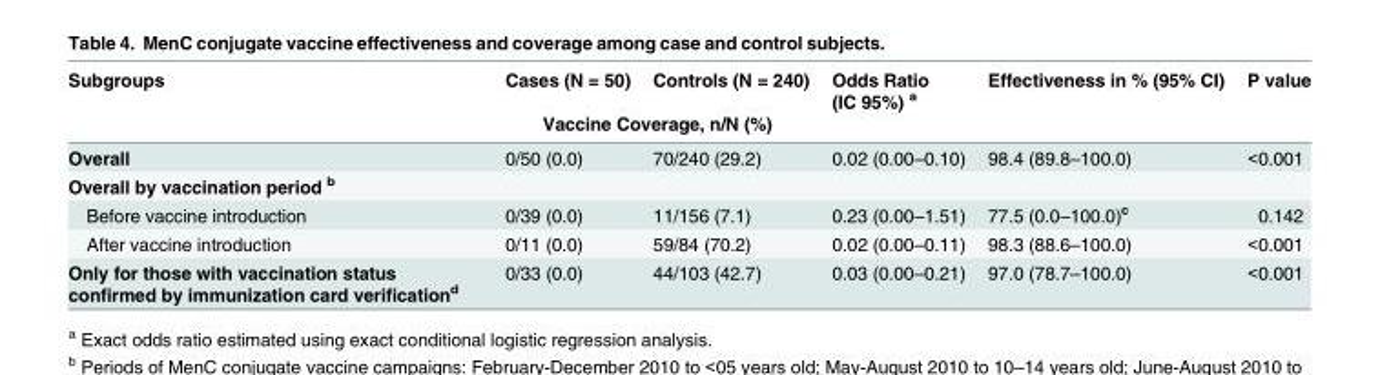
<table><thead><tr><td rowspan="2">Subgroups</td><td>Cases (N = 50)</td><td>Controls (N = 240)</td><td rowspan="2">Odds Ratio (IC 95%) <sup>a</sup></td><td rowspan="2">Effectiveness in % (95% CI)</td><td rowspan="2">P value</td></tr><tr><td colspan="2">Vaccine Coverage, n/N (%)</td></tr></thead><tbody><tr><td>Overall</td><td>0/50 (0.0)</td><td>70/240 (29.2)</td><td>0.02 (0.00–0.10)</td><td>98.4 (89.8–100.0)</td><td>&lt;0.001</td></tr><tr><td colspan="6">Overall by vaccination period <sup>b</sup></td></tr><tr><td>Before vaccine introduction</td><td>0/39 (0.0)</td><td>11/156 (7.1)</td><td>0.23 (0.00–1.51)</td><td>77.5 (0.0–100.0)<sup>c</sup></td><td>0.142</td></tr><tr><td>After vaccine introduction</td><td>0/11 (0.0)</td><td>59/84 (70.2)</td><td>0.02 (0.00–0.11)</td><td>98.3 (88.6–100.0)</td><td>&lt;0.001</td></tr><tr><td>Only for those with vaccination status confirmed by immunization card verification<sup>d</sup></td><td>0/33 (0.0)</td><td>44/103 (42.7)</td><td>0.03 (0.00–0.21)</td><td>97.0 (78.7–100.0)</td><td>&lt;0.001</td></tr></tbody></table>